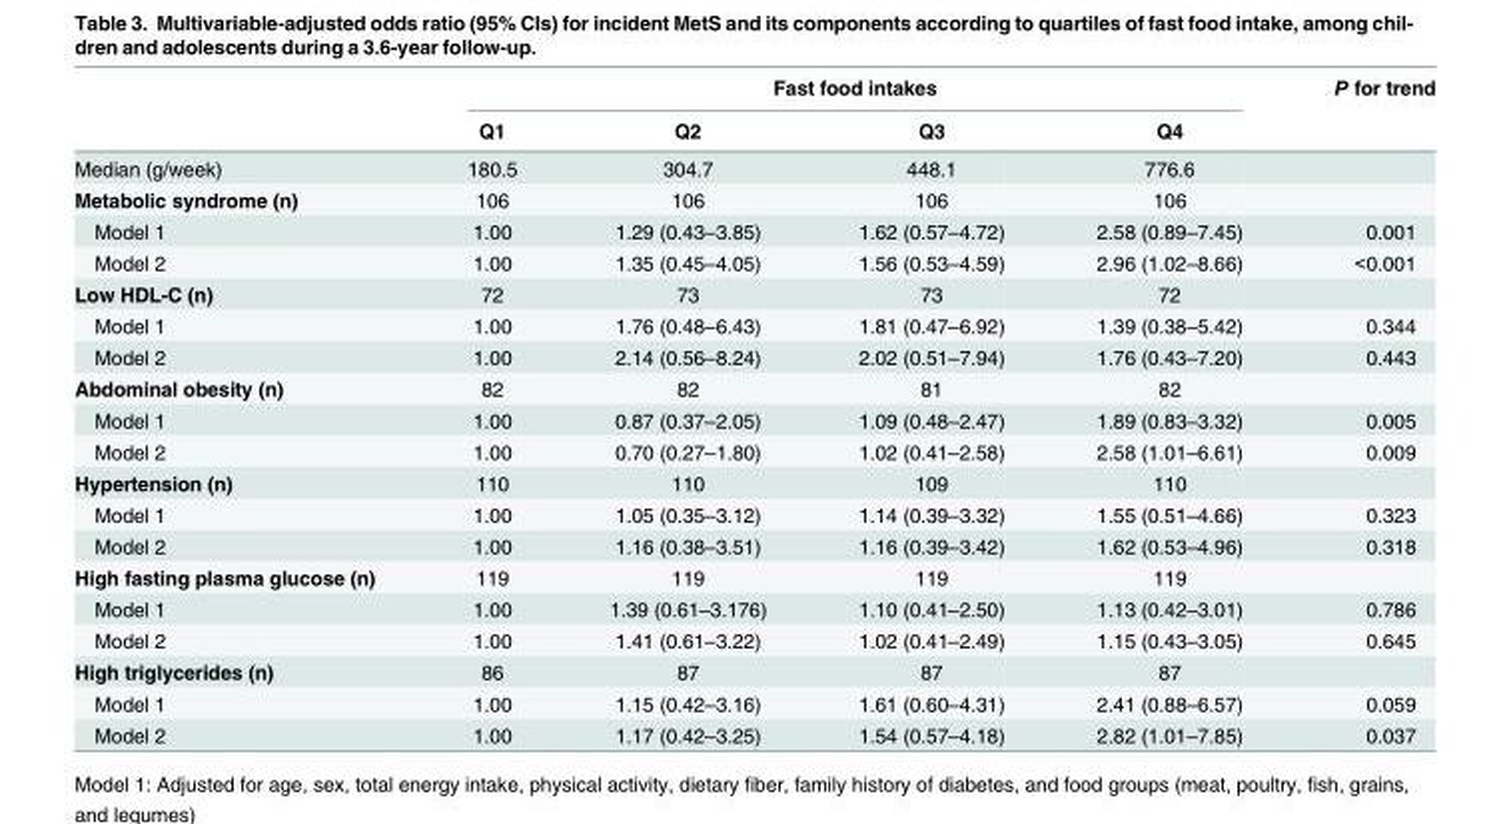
<table><thead><tr><td rowspan="2"></td><td colspan="4">Fast food intakes</td><td rowspan="2">P for trend</td></tr><tr><td>Q1</td><td>Q2</td><td>Q3</td><td>Q4</td></tr></thead><tbody><tr><td>Median (g/week)</td><td>180.5</td><td>304.7</td><td>448.1</td><td>776.6</td><td></td></tr><tr><td>Metabolic syndrome (n)</td><td>106</td><td>106</td><td>106</td><td>106</td><td></td></tr><tr><td>Model 1</td><td>1.00</td><td>1.29 (0.43–3.85)</td><td>1.62 (0.57–4.72)</td><td>2.58 (0.89–7.45)</td><td>0.001</td></tr><tr><td>Model 2</td><td>1.00</td><td>1.35 (0.45–4.05)</td><td>1.56 (0.53–4.59)</td><td>2.96 (1.02–8.66)</td><td>&lt;0.001</td></tr><tr><td>Low HDL-C (n)</td><td>72</td><td>73</td><td>73</td><td>72</td><td></td></tr><tr><td>Model 1</td><td>1.00</td><td>1.76 (0.48–6.43)</td><td>1.81 (0.47–6.92)</td><td>1.39 (0.38–5.42)</td><td>0.344</td></tr><tr><td>Model 2</td><td>1.00</td><td>2.14 (0.56–8.24)</td><td>2.02 (0.51–7.94)</td><td>1.76 (0.43–7.20)</td><td>0.443</td></tr><tr><td>Abdominal obesity (n)</td><td>82</td><td>82</td><td>81</td><td>82</td><td></td></tr><tr><td>Model 1</td><td>1.00</td><td>0.87 (0.37–2.05)</td><td>1.09 (0.48–2.47)</td><td>1.89 (0.83–3.32)</td><td>0.005</td></tr><tr><td>Model 2</td><td>1.00</td><td>0.70 (0.27–1.80)</td><td>1.02 (0.41–2.58)</td><td>2.58 (1.01–6.61)</td><td>0.009</td></tr><tr><td>Hypertension (n)</td><td>110</td><td>110</td><td>109</td><td>110</td><td></td></tr><tr><td>Model 1</td><td>1.00</td><td>1.05 (0.35–3.12)</td><td>1.14 (0.39–3.32)</td><td>1.55 (0.51–4.66)</td><td>0.323</td></tr><tr><td>Model 2</td><td>1.00</td><td>1.16 (0.38–3.51)</td><td>1.16 (0.39–3.42)</td><td>1.62 (0.53–4.96)</td><td>0.318</td></tr><tr><td>High fasting plasma glucose (n)</td><td>119</td><td>119</td><td>119</td><td>119</td><td></td></tr><tr><td>Model 1</td><td>1.00</td><td>1.39 (0.61–3.176)</td><td>1.10 (0.41–2.50)</td><td>1.13 (0.42–3.01)</td><td>0.786</td></tr><tr><td>Model 2</td><td>1.00</td><td>1.41 (0.61–3.22)</td><td>1.02 (0.41–2.49)</td><td>1.15 (0.43–3.05)</td><td>0.645</td></tr><tr><td>High triglycerides (n)</td><td>86</td><td>87</td><td>87</td><td>87</td><td></td></tr><tr><td>Model 1</td><td>1.00</td><td>1.15 (0.42–3.16)</td><td>1.61 (0.60–4.31)</td><td>2.41 (0.88–6.57)</td><td>0.059</td></tr><tr><td>Model 2</td><td>1.00</td><td>1.17 (0.42–3.25)</td><td>1.54 (0.57–4.18)</td><td>2.82 (1.01–7.85)</td><td>0.037</td></tr></tbody></table>